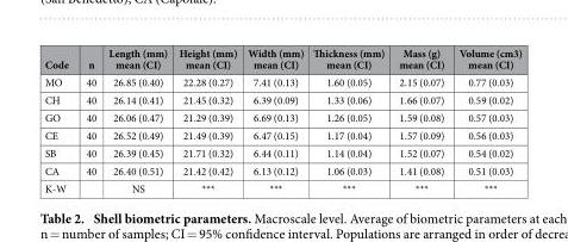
<table><thead><tr><td>Code</td><td>n</td><td>Length (mm) mean (CI)</td><td>Height (mm) mean (CI)</td><td>Width (mm) mean (CI)</td><td>Thickness (mm) mean (CI)</td><td>Mass (g) mean (CI)</td><td>Volume (cm3) mean (CI)</td></tr></thead><tbody><tr><td>MO</td><td>40</td><td>26.85 (0.40)</td><td>22.28 (0.27)</td><td>7.41 (0.13)</td><td>1.60 (0.05)</td><td>2.15 (0.07)</td><td>0.77 (0.03)</td></tr><tr><td>CH</td><td>40</td><td>26.14 (0.41)</td><td>21.45 (0.32)</td><td>6.39 (0.09)</td><td>1.33 (0.06)</td><td>1.66 (0.07)</td><td>0.59 (0.02)</td></tr><tr><td>GO</td><td>40</td><td>26.06 (0.47)</td><td>21.29 (0.39)</td><td>6.69 (0.13)</td><td>1.26 (0.05)</td><td>1.59 (0.08)</td><td>0.57 (0.03)</td></tr><tr><td>CE</td><td>40</td><td>26.52 (0.49)</td><td>21.49 (0.39)</td><td>6.47 (0.15)</td><td>1.17 (0.04)</td><td>1.57 (0.09)</td><td>0.56 (0.03)</td></tr><tr><td>SB</td><td>40</td><td>26.39 (0.45)</td><td>21.71 (0.32)</td><td>6.44 (0.11)</td><td>1.14 (0.04)</td><td>1.52 (0.07)</td><td>0.54 (0.02)</td></tr><tr><td>CA</td><td>40</td><td>26.40 (0.51)</td><td>21.42 (0.42)</td><td>6.13 (0.12)</td><td>1.06 (0.03)</td><td>1.41 (0.08)</td><td>0.51 (0.03)</td></tr><tr><td>K-W</td><td></td><td>NS</td><td>***</td><td>***</td><td>***</td><td>***</td><td>***</td></tr></tbody></table>